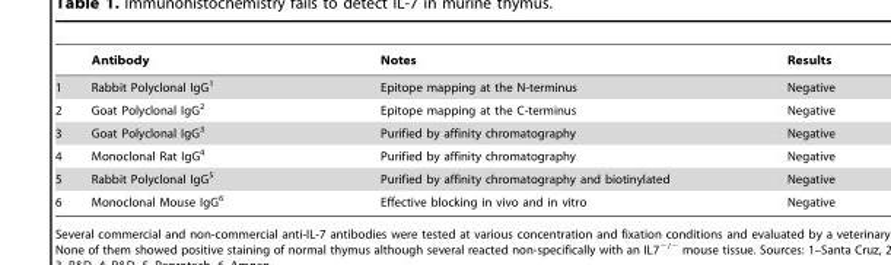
<table><thead><tr><td></td><td>Antibody</td><td>Notes</td><td>Results</td></tr></thead><tbody><tr><td>1</td><td>Rabbit Polyclonal IgG<sup>1</sup></td><td>Epitope mapping at the N-terminus</td><td>Negative</td></tr><tr><td>2</td><td>Goat Polyclonal IgG<sup>2</sup></td><td>Epitope mapping at the C-terminus</td><td>Negative</td></tr><tr><td>3</td><td>Goat Polyclonal IgG<sup>3</sup></td><td>Purified by affinity chromatography</td><td>Negative</td></tr><tr><td>4</td><td>Monoclonal Rat IgG<sup>4</sup></td><td>Purified by affinity chromatography</td><td>Negative</td></tr><tr><td>5</td><td>Rabbit Polyclonal IgG<sup>5</sup></td><td>Purified by affinity chromatography and biotinylated</td><td>Negative</td></tr><tr><td>6</td><td>Monoclonal Mouse IgG<sup>6</sup></td><td>Effective blocking in vivo and in vitro</td><td>Negative</td></tr></tbody></table>